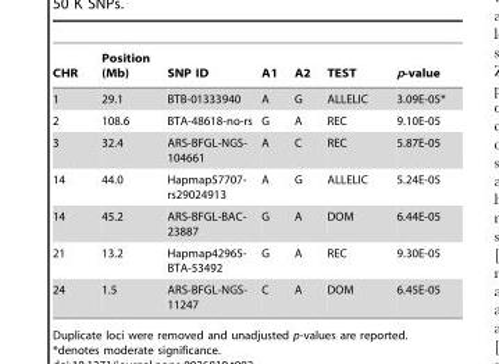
<table><thead><tr><td>CHR</td><td>Position (Mb)</td><td>SNP ID</td><td>A1</td><td>A2</td><td>TEST</td><td>p-value</td></tr></thead><tbody><tr><td>1</td><td>29.1</td><td>BTB-01333940</td><td>A</td><td>G</td><td>ALLELIC</td><td>3.09E-05*</td></tr><tr><td>2</td><td>108.6</td><td>BTA-48618-no-rs</td><td>G</td><td>A</td><td>REC</td><td>9.10E-05</td></tr><tr><td>3</td><td>32.4</td><td>ARS-BFGL-NGS- 104661</td><td>A</td><td>C</td><td>REC</td><td>5.87E-05</td></tr><tr><td>14</td><td>44.0</td><td>Hapmap57707- rs29024913</td><td>A</td><td>G</td><td>ALLELIC</td><td>5.24E-05</td></tr><tr><td>14</td><td>45.2</td><td>ARS-BFGL-BAC- 23887</td><td>G</td><td>A</td><td>DOM</td><td>6.44E-05</td></tr><tr><td>21</td><td>13.2</td><td>Hapmap42965- BTA-53492</td><td>G</td><td>A</td><td>REC</td><td>9.30E-05</td></tr><tr><td>24</td><td>1.5</td><td>ARS-BFGL-NGS- 11247</td><td>C</td><td>A</td><td>DOM</td><td>6.45E-05</td></tr></tbody></table>